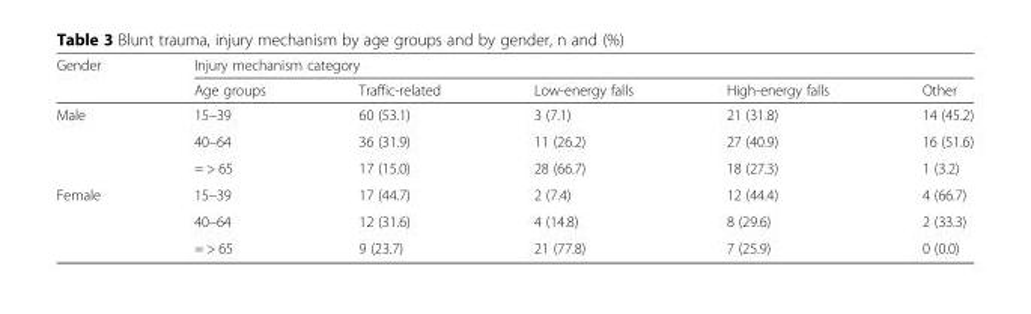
<table><thead><tr><td rowspan="2">Gender</td><td colspan="5">Injury mechanism category</td></tr><tr><td>Age groups</td><td>Traffic-related</td><td>Low-energy falls</td><td>High-energy falls</td><td>Other</td></tr></thead><tbody><tr><td rowspan="3">Male</td><td>15–39</td><td>60 (53.1)</td><td>3 (7.1)</td><td>21 (31.8)</td><td>14 (45.2)</td></tr><tr><td>40–64</td><td>36 (31.9)</td><td>11 (26.2)</td><td>27 (40.9)</td><td>16 (51.6)</td></tr><tr><td>= &gt; 65</td><td>17 (15.0)</td><td>28 (66.7)</td><td>18 (27.3)</td><td>1 (3.2)</td></tr><tr><td rowspan="3">Female</td><td>15–39</td><td>17 (44.7)</td><td>2 (7.4)</td><td>12 (44.4)</td><td>4 (66.7)</td></tr><tr><td>40–64</td><td>12 (31.6)</td><td>4 (14.8)</td><td>8 (29.6)</td><td>2 (33.3)</td></tr><tr><td>= &gt; 65</td><td>9 (23.7)</td><td>21 (77.8)</td><td>7 (25.9)</td><td>0 (0.0)</td></tr></tbody></table>